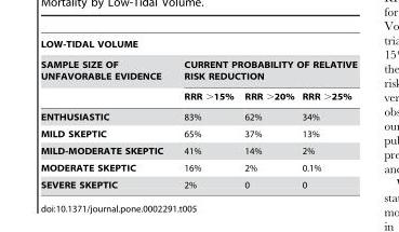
<table><thead><tr><td colspan="4">LOW-TIDAL VOLUME</td></tr><tr><td rowspan="2">SAMPLE SIZE OF UNFAVORABLE EVIDENCE</td><td colspan="3">CURRENT PROBABILITY OF RELATIVE RISK REDUCTION</td></tr><tr><td>RRR &gt;15%</td><td>RRR &gt;20%</td><td>RRR &gt;25%</td></tr></thead><tbody><tr><td>ENTHUSIASTIC</td><td>83%</td><td>62%</td><td>34%</td></tr><tr><td>MILD SKEPTIC</td><td>65%</td><td>37%</td><td>13%</td></tr><tr><td>MILD-MODERATE SKEPTIC</td><td>41%</td><td>14%</td><td>2%</td></tr><tr><td>MODERATE SKEPTIC</td><td>16%</td><td>2%</td><td>0.1%</td></tr><tr><td>SEVERE SKEPTIC</td><td>2%</td><td>0</td><td>0</td></tr></tbody></table>